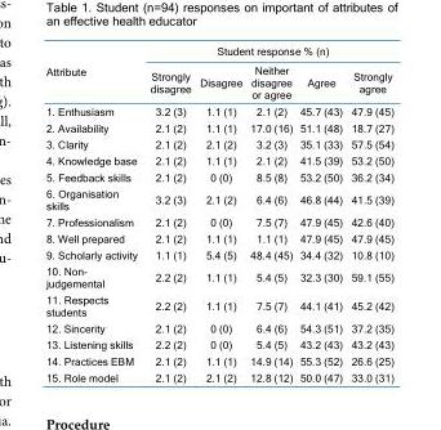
<table><thead><tr><td rowspan="2">Attribute</td><td colspan="5">Student response % (n)</td></tr><tr><td>Strongly disagree</td><td>Disagree</td><td>Neither disagree or agree</td><td>Agree</td><td>Strongly agree</td></tr></thead><tbody><tr><td>1. Enthusiasm</td><td>3.2 (3)</td><td>1.1 (1)</td><td>2.1 (2)</td><td>45.7 (43)</td><td>47.9 (45)</td></tr><tr><td>2. Availability</td><td>2.1 (2)</td><td>1.1 (1)</td><td>17.0 (16)</td><td>51.1 (48)</td><td>18.7 (27)</td></tr><tr><td>3. Clarity</td><td>2.1 (2)</td><td>2.1 (2)</td><td>3.2 (3)</td><td>35.1 (33)</td><td>57.5 (54)</td></tr><tr><td>4. Knowledge base</td><td>2.1 (2)</td><td>1.1 (1)</td><td>2.1 (2)</td><td>41.5 (39)</td><td>53.2 (50)</td></tr><tr><td>5. Feedback skills</td><td>2.1 (2)</td><td>0 (0)</td><td>8.5 (8)</td><td>53.2 (50)</td><td>36.2 (34)</td></tr><tr><td>6. Organisation skills</td><td>3.2 (3)</td><td>2.1 (2)</td><td>6.4 (6)</td><td>46.8 (44)</td><td>41.5 (39)</td></tr><tr><td>7. Professionalism</td><td>2.1 (2)</td><td>0 (0)</td><td>7.5 (7)</td><td>47.9 (45)</td><td>42.6 (40)</td></tr><tr><td>8. Well prepared</td><td>2.1 (2)</td><td>1.1 (1)</td><td>1.1 (1)</td><td>47.9 (45)</td><td>47.9 (45)</td></tr><tr><td>9. Scholarly activity</td><td>1.1 (1)</td><td>5.4 (5)</td><td>48.4 (45)</td><td>34.4 (32)</td><td>10.8 (10)</td></tr><tr><td>10. Non- judgemental</td><td>2.2 (2)</td><td>1.1 (1)</td><td>5.4 (5)</td><td>32.3 (30)</td><td>59.1 (55)</td></tr><tr><td>11. Respects students</td><td>2.2 (2)</td><td>1.1 (1)</td><td>7.5 (7)</td><td>44.1 (41)</td><td>45.2 (42)</td></tr><tr><td>12. Sincerity</td><td>2.1 (2)</td><td>0 (0)</td><td>6.4 (6)</td><td>54.3 (51)</td><td>37.2 (35)</td></tr><tr><td>13. Listening skills</td><td>2.2 (2)</td><td>0 (0)</td><td>5.4 (5)</td><td>43.2 (43)</td><td>43.2 (43)</td></tr><tr><td>14. Practices EBM</td><td>2.1 (2)</td><td>1.1 (1)</td><td>14.9 (14)</td><td>55.3 (52)</td><td>26.6 (25)</td></tr><tr><td>15. Role model</td><td>2.1 (2)</td><td>2.1 (2)</td><td>12.8 (12)</td><td>50.0 (47)</td><td>33.0 (31)</td></tr></tbody></table>